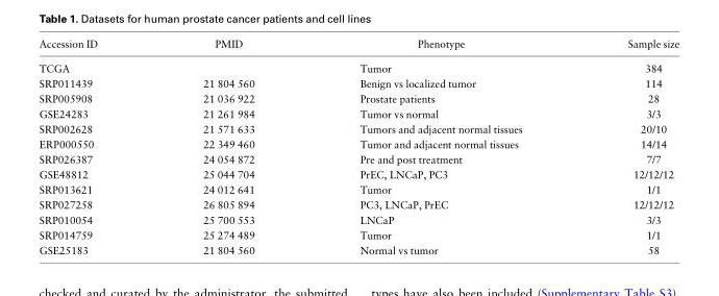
<table><thead><tr><td>Accession ID</td><td>PMID</td><td>Phenotype</td><td>Sample size</td></tr></thead><tbody><tr><td>TCGA</td><td></td><td>Tumor</td><td>384</td></tr><tr><td>SRP011439</td><td>21 804 560</td><td>Benign vs localized tumor</td><td>114</td></tr><tr><td>SRP005908</td><td>21 036 922</td><td>Prostate patients</td><td>28</td></tr><tr><td>GSE24283</td><td>21 261 984</td><td>Tumor vs normal</td><td>3/3</td></tr><tr><td>SRP002628</td><td>21 571 633</td><td>Tumors and adjacent normal tissues</td><td>20/10</td></tr><tr><td>ERP000550</td><td>22 349 460</td><td>Tumor and adjacent normal tissues</td><td>14/14</td></tr><tr><td>SRP026387</td><td>24 054 872</td><td>Pre and post treatment</td><td>7/7</td></tr><tr><td>GSE48812</td><td>25 044 704</td><td>PrEC, LNCaP, PC3</td><td>12/12/12</td></tr><tr><td>SRP013621</td><td>24 012 641</td><td>Tumor</td><td>1/1</td></tr><tr><td>SRP027258</td><td>26 805 894</td><td>PC3, LNCaP, PrEC</td><td>12/12/12</td></tr><tr><td>SRP010054</td><td>25 700 553</td><td>LNCaP</td><td>3/3</td></tr><tr><td>SRP014759</td><td>25 274 489</td><td>Tumor</td><td>1/1</td></tr><tr><td>GSE25183</td><td>21 804 560</td><td>Normal vs tumor</td><td>58</td></tr></tbody></table>